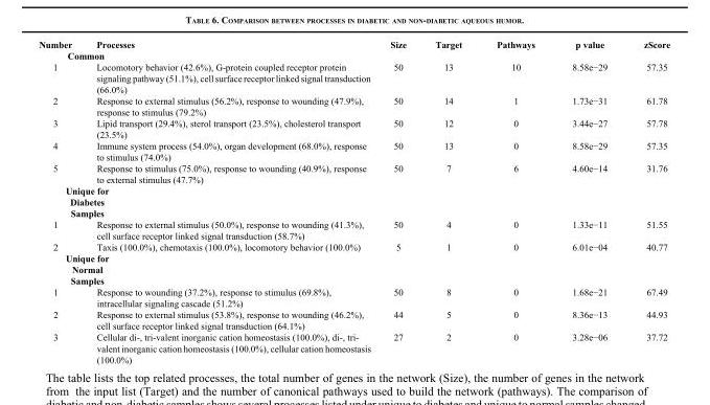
<table><thead><tr><td>Number</td><td>Processes</td><td>Size</td><td>Target</td><td>Pathways</td><td>p value</td><td>zScore</td></tr></thead><tbody><tr><td colspan="7">Common</td></tr><tr><td>1</td><td>Locomotory behavior (42.6%), G-protein coupled receptor protein signaling pathway (51.1%), cell surface receptor linked signal transduction (66.0%)</td><td>50</td><td>13</td><td>10</td><td>8.58e−29</td><td>57.35</td></tr><tr><td>2</td><td>Response to external stimulus (56.2%), response to wounding (47.9%), response to stimulus (79.2%)</td><td>50</td><td>14</td><td>1</td><td>1.73e−31</td><td>61.78</td></tr><tr><td>3</td><td>Lipid transport (29.4%), sterol transport (23.5%), cholesterol transport (23.5%)</td><td>50</td><td>12</td><td>0</td><td>3.44e−27</td><td>57.78</td></tr><tr><td>4</td><td>Immune system process (54.0%), organ development (68.0%), response to stimulus (74.0%)</td><td>50</td><td>13</td><td>0</td><td>8.58e−29</td><td>57.35</td></tr><tr><td>5</td><td>Response to stimulus (75.0%), response to wounding (40.9%), response to external stimulus (47.7%)</td><td>50</td><td>7</td><td>6</td><td>4.60e−14</td><td>31.76</td></tr><tr><td colspan="7">Unique for Diabetes Samples</td></tr><tr><td>1</td><td>Response to external stimulus (50.0%), response to wounding (41.3%), cell surface receptor linked signal transduction (58.7%)</td><td>50</td><td>4</td><td>0</td><td>1.33e−11</td><td>51.55</td></tr><tr><td>2</td><td>Taxis (100.0%), chemotaxis (100.0%), locomotory behavior (100.0%)</td><td>5</td><td>1</td><td>0</td><td>6.01e−04</td><td>40.77</td></tr><tr><td colspan="7">Unique for Normal Samples</td></tr><tr><td>1</td><td>Response to wounding (37.2%), response to stimulus (69.8%), intracellular signaling cascade (51.2%)</td><td>50</td><td>8</td><td>0</td><td>1.68e−21</td><td>67.49</td></tr><tr><td>2</td><td>Response to external stimulus (53.8%), response to wounding (46.2%), cell surface receptor linked signal transduction (64.1%)</td><td>44</td><td>5</td><td>0</td><td>8.36e−13</td><td>44.93</td></tr><tr><td>3</td><td>Cellular di-, tri-valent inorganic cation homeostasis (100.0%), di-, tri- valent inorganic cation homeostasis (100.0%), cellular cation homeostasis (100.0%)</td><td>27</td><td>2</td><td>0</td><td>3.28e−06</td><td>37.72</td></tr></tbody></table>